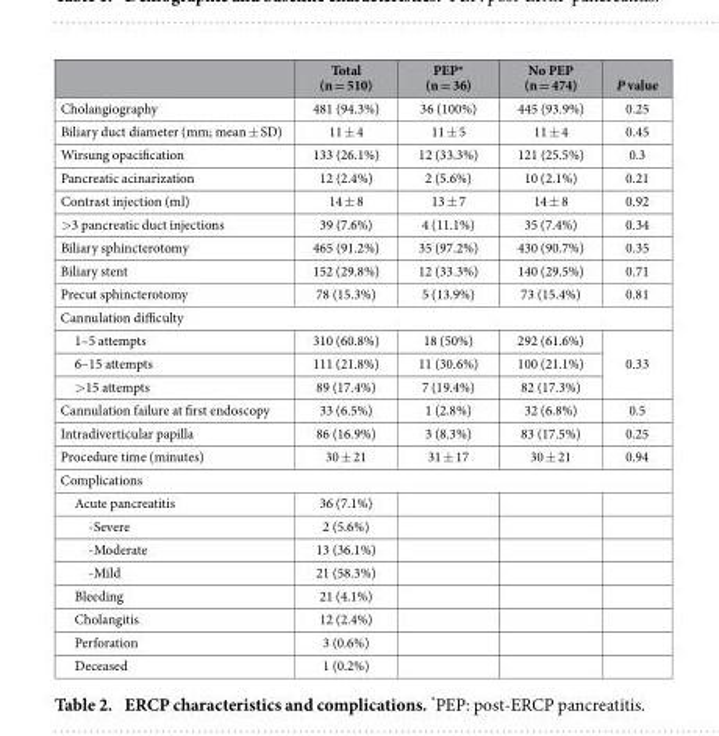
<table><thead><tr><td></td><td>Total (n = 510)</td><td>PEP* (n = 36)</td><td>No PEP (n = 474)</td><td>P value</td></tr></thead><tbody><tr><td>Cholangiography</td><td>481 (94.3%)</td><td>36 (100%)</td><td>445 (93.9%)</td><td>0.25</td></tr><tr><td>Biliary duct diameter (mm; mean ± SD)</td><td>11 ± 4</td><td>11 ± 5</td><td>11 ± 4</td><td>0.45</td></tr><tr><td>Wirsung opacification</td><td>133 (26.1%)</td><td>12 (33.3%)</td><td>121 (25.5%)</td><td>0.3</td></tr><tr><td>Pancreatic acinarization</td><td>12 (2.4%)</td><td>2 (5.6%)</td><td>10 (2.1%)</td><td>0.21</td></tr><tr><td>Contrast injection (ml)</td><td>14 ± 8</td><td>13 ± 7</td><td>14 ± 8</td><td>0.92</td></tr><tr><td>&gt;3 pancreatic duct injections</td><td>39 (7.6%)</td><td>4 (11.1%)</td><td>35 (7.4%)</td><td>0.34</td></tr><tr><td>Biliary sphincterotomy</td><td>465 (91.2%)</td><td>35 (97.2%)</td><td>430 (90.7%)</td><td>0.35</td></tr><tr><td>Biliary stent</td><td>152 (29.8%)</td><td>12 (33.3%)</td><td>140 (29.5%)</td><td>0.71</td></tr><tr><td>Precut sphincterotomy</td><td>78 (15.3%)</td><td>5 (13.9%)</td><td>73 (15.4%)</td><td>0.81</td></tr><tr><td colspan="5">Cannulation difficulty</td></tr><tr><td>1–5 attempts</td><td>310 (60.8%)</td><td>18 (50%)</td><td>292 (61.6%)</td><td rowspan="3">0.33</td></tr><tr><td>6–15 attempts</td><td>111 (21.8%)</td><td>11 (30.6%)</td><td>100 (21.1%)</td></tr><tr><td>&gt;15 attempts</td><td>89 (17.4%)</td><td>7 (19.4%)</td><td>82 (17.3%)</td></tr><tr><td>Cannulation failure at first endoscopy</td><td>33 (6.5%)</td><td>1 (2.8%)</td><td>32 (6.8%)</td><td>0.5</td></tr><tr><td>Intradiverticular papilla</td><td>86 (16.9%)</td><td>3 (8.3%)</td><td>83 (17.5%)</td><td>0.25</td></tr><tr><td>Procedure time (minutes)</td><td>30 ± 21</td><td>31 ± 17</td><td>30 ± 21</td><td>0.94</td></tr><tr><td colspan="5">Complications</td></tr><tr><td>Acute pancreatitis</td><td>36 (7.1%)</td><td></td><td></td><td></td></tr><tr><td>-Severe</td><td>2 (5.6%)</td><td></td><td></td><td></td></tr><tr><td>-Moderate</td><td>13 (36.1%)</td><td></td><td></td><td></td></tr><tr><td>-Mild</td><td>21 (58.3%)</td><td></td><td></td><td></td></tr><tr><td>Bleeding</td><td>21 (4.1%)</td><td></td><td></td><td></td></tr><tr><td>Cholangitis</td><td>12 (2.4%)</td><td></td><td></td><td></td></tr><tr><td>Perforation</td><td>3 (0.6%)</td><td></td><td></td><td></td></tr><tr><td>Deceased</td><td>1 (0.2%)</td><td></td><td></td><td></td></tr></tbody></table>